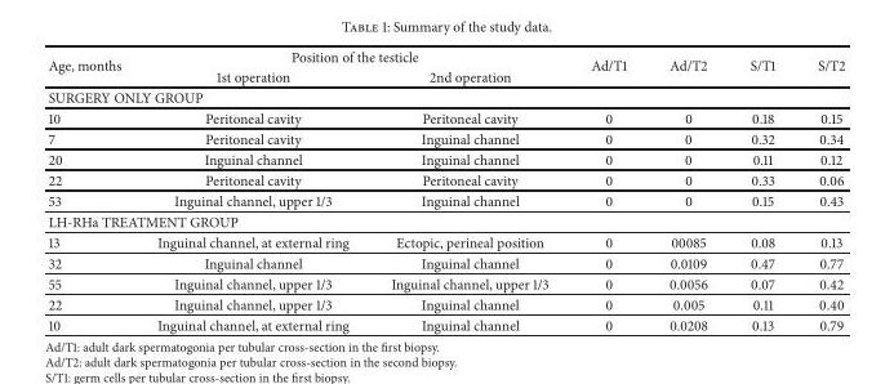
<table><thead><tr><td rowspan="2">Age, months</td><td colspan="2">Position of the testicle</td><td rowspan="2">Ad/T1</td><td rowspan="2">Ad/T2</td><td rowspan="2">S/T1</td><td rowspan="2">S/T2</td></tr><tr><td>1st operation</td><td>2nd operation</td></tr></thead><tbody><tr><td colspan="7">SURGERY ONLY GROUP</td></tr><tr><td>10</td><td>Peritoneal cavity</td><td>Peritoneal cavity</td><td>0</td><td>0</td><td>0.18</td><td>0.15</td></tr><tr><td>7</td><td>Peritoneal cavity</td><td>Inguinal channel</td><td>0</td><td>0</td><td>0.32</td><td>0.34</td></tr><tr><td>20</td><td>Inguinal channel</td><td>Inguinal channel</td><td>0</td><td>0</td><td>0.11</td><td>0.12</td></tr><tr><td>22</td><td>Peritoneal cavity</td><td>Peritoneal cavity</td><td>0</td><td>0</td><td>0.33</td><td>0.06</td></tr><tr><td>53</td><td>Inguinal channel, upper 1/3</td><td>Inguinal channel</td><td>0</td><td>0</td><td>0.15</td><td>0.43</td></tr><tr><td colspan="7">LH-RHa TREATMENT GROUP</td></tr><tr><td>13</td><td>Inguinal channel, at external ring</td><td>Ectopic, perineal position</td><td>0</td><td>00085</td><td>0.08</td><td>0.13</td></tr><tr><td>32</td><td>Inguinal channel</td><td>Inguinal channel</td><td>0</td><td>0.0109</td><td>0.47</td><td>0.77</td></tr><tr><td>55</td><td>Inguinal channel, upper 1/3</td><td>Inguinal channel, upper 1/3</td><td>0</td><td>0.0056</td><td>0.07</td><td>0.42</td></tr><tr><td>22</td><td>Inguinal channel, upper 1/3</td><td>Inguinal channel</td><td>0</td><td>0.005</td><td>0.11</td><td>0.40</td></tr><tr><td>10</td><td>Inguinal channel, at external ring</td><td>Inguinal channel</td><td>0</td><td>0.0208</td><td>0.13</td><td>0.79</td></tr></tbody></table>